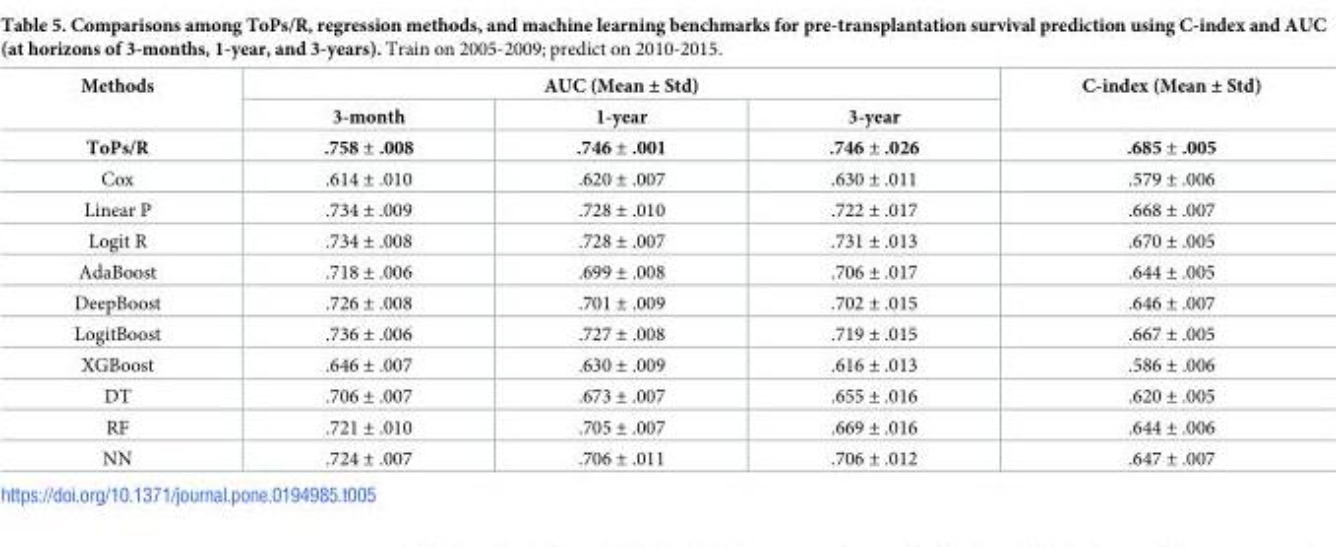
<table><thead><tr><td rowspan="2">Methods</td><td colspan="3">AUC (Mean ± Std)</td><td rowspan="2">C-index (Mean ± Std)</td></tr><tr><td>3-month</td><td>1-year</td><td>3-year</td></tr></thead><tbody><tr><td>ToPs/R</td><td>.758 ± .008</td><td>.746 ± .001</td><td>.746 ± .026</td><td>.685 ± .005</td></tr><tr><td>Cox</td><td>.614 ± .010</td><td>.620 ± .007</td><td>.630 ± .011</td><td>.579 ± .006</td></tr><tr><td>Linear P</td><td>.734 ± .009</td><td>.728 ± .010</td><td>.722 ± .017</td><td>.668 ± .007</td></tr><tr><td>Logit R</td><td>.734 ± .008</td><td>.728 ± .007</td><td>.731 ± .013</td><td>.670 ± .005</td></tr><tr><td>AdaBoost</td><td>.718 ± .006</td><td>.699 ± .008</td><td>.706 ± .017</td><td>.644 ± .005</td></tr><tr><td>DeepBoost</td><td>.726 ± .008</td><td>.701 ± .009</td><td>.702 ± .015</td><td>.646 ± .007</td></tr><tr><td>LogitBoost</td><td>.736 ± .006</td><td>.727 ± .008</td><td>.719 ± .015</td><td>.667 ± .005</td></tr><tr><td>XGBoost</td><td>.646 ± .007</td><td>.630 ± .009</td><td>.616 ± .013</td><td>.586 ± .006</td></tr><tr><td>DT</td><td>.706 ± .007</td><td>.673 ± .007</td><td>.655 ± .016</td><td>.620 ± .005</td></tr><tr><td>RF</td><td>.721 ± .010</td><td>.705 ± .007</td><td>.669 ± .016</td><td>.644 ± .006</td></tr><tr><td>NN</td><td>.724 ± .007</td><td>.706 ± .011</td><td>.706 ± .012</td><td>.647 ± .007</td></tr></tbody></table>